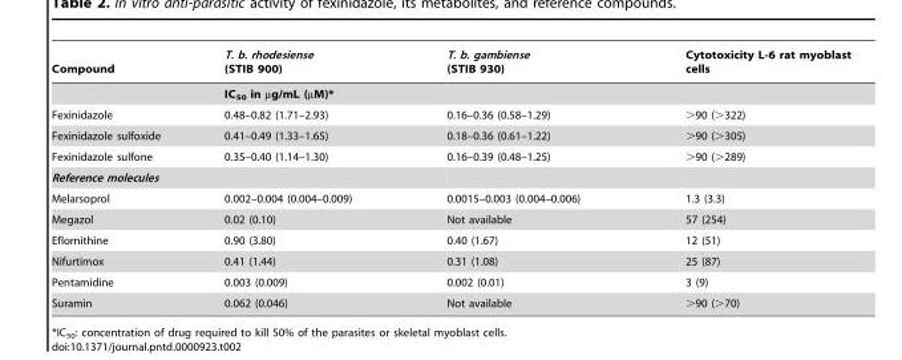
<table><thead><tr><td>Compound</td><td>T. b. rhodesiense (STIB 900)</td><td>T. b. gambiense (STIB 930)</td><td>Cytotoxicity L-6 rat myoblast cells</td></tr></thead><tbody><tr><td></td><td colspan="3">IC<sub>50</sub> in µg/mL (µM)*</td></tr><tr><td>Fexinidazole</td><td>0.48–0.82 (1.71–2.93)</td><td>0.16–0.36 (0.58–1.29)</td><td>&gt;90 (&gt;322)</td></tr><tr><td>Fexinidazole sulfoxide</td><td>0.41–0.49 (1.33–1.65)</td><td>0.18–0.36 (0.61–1.22)</td><td>&gt;90 (&gt;305)</td></tr><tr><td>Fexinidazole sulfone</td><td>0.35–0.40 (1.14–1.30)</td><td>0.16–0.39 (0.48–1.25)</td><td>&gt;90 (&gt;289)</td></tr><tr><td colspan="4">Reference molecules</td></tr><tr><td>Melarsoprol</td><td>0.002–0.004 (0.004–0.009)</td><td>0.0015–0.003 (0.004–0.006)</td><td>1.3 (3.3)</td></tr><tr><td>Megazol</td><td>0.02 (0.10)</td><td>Not available</td><td>57 (254)</td></tr><tr><td>Eflornithine</td><td>0.90 (3.80)</td><td>0.40 (1.67)</td><td>12 (51)</td></tr><tr><td>Nifurtimox</td><td>0.41 (1.44)</td><td>0.31 (1.08)</td><td>25 (87)</td></tr><tr><td>Pentamidine</td><td>0.003 (0.009)</td><td>0.002 (0.01)</td><td>3 (9)</td></tr><tr><td>Suramin</td><td>0.062 (0.046)</td><td>Not available</td><td>&gt;90 (&gt;70)</td></tr></tbody></table>